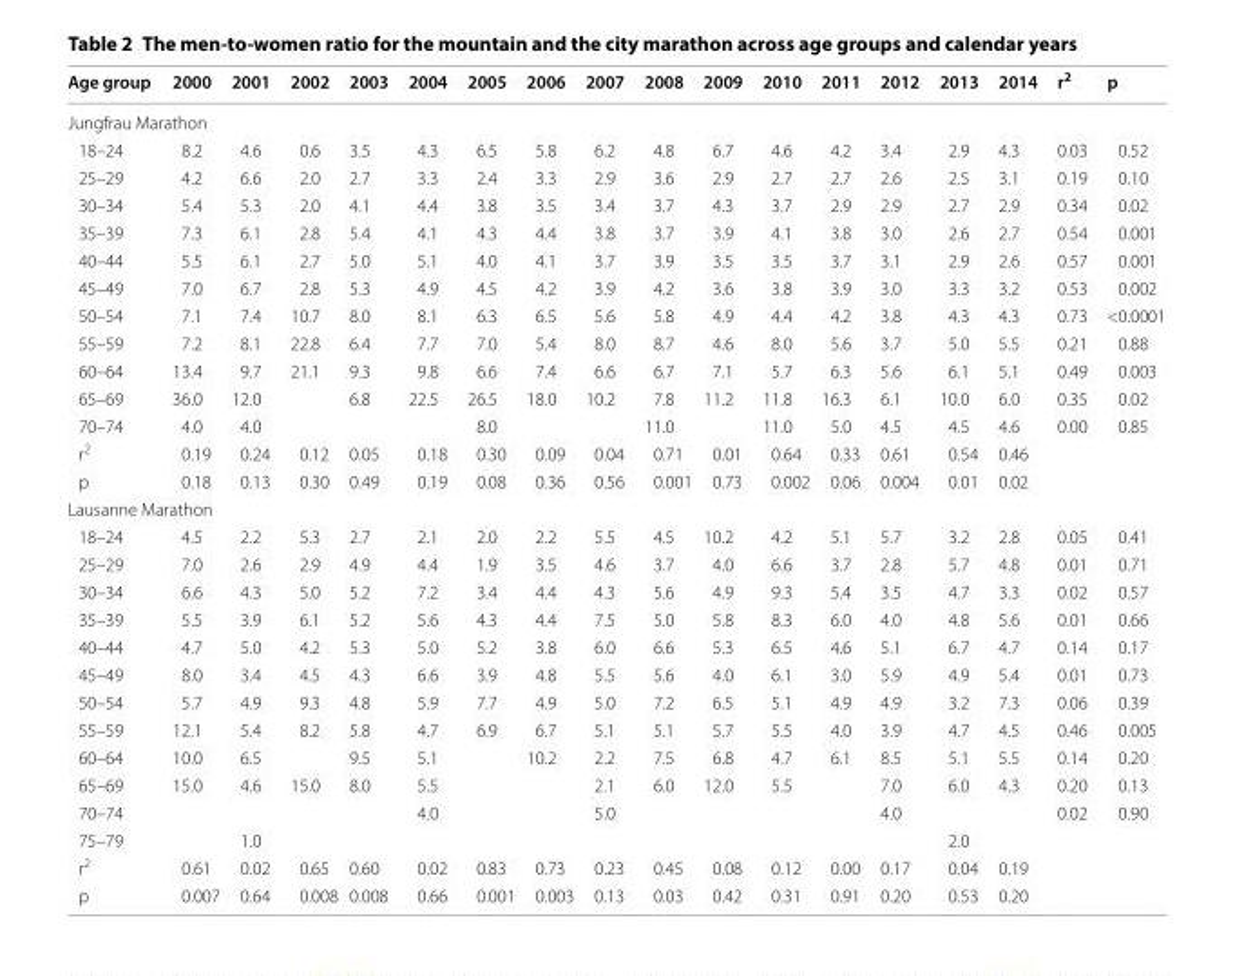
<table><thead><tr><td>Age group</td><td>2000</td><td>2001</td><td>2002</td><td>2003</td><td>2004</td><td>2005</td><td>2006</td><td>2007</td><td>2008</td><td>2009</td><td>2010</td><td>2011</td><td>2012</td><td>2013</td><td>2014</td><td>r<sup>2</sup></td><td>p</td></tr></thead><tbody><tr><td colspan="18">Jungfrau Marathon</td></tr><tr><td>18–24</td><td>8.2</td><td>4.6</td><td>0.6</td><td>3.5</td><td>4.3</td><td>6.5</td><td>5.8</td><td>6.2</td><td>4.8</td><td>6.7</td><td>4.6</td><td>4.2</td><td>3.4</td><td>2.9</td><td>4.3</td><td>0.03</td><td>0.52</td></tr><tr><td>25–29</td><td>4.2</td><td>6.6</td><td>2.0</td><td>2.7</td><td>3.3</td><td>2.4</td><td>3.3</td><td>2.9</td><td>3.6</td><td>2.9</td><td>2.7</td><td>2.7</td><td>2.6</td><td>2.5</td><td>3.1</td><td>0.19</td><td>0.10</td></tr><tr><td>30–34</td><td>5.4</td><td>5.3</td><td>2.0</td><td>4.1</td><td>4.4</td><td>3.8</td><td>3.5</td><td>3.4</td><td>3.7</td><td>4.3</td><td>3.7</td><td>2.9</td><td>2.9</td><td>2.7</td><td>2.9</td><td>0.34</td><td>0.02</td></tr><tr><td>35–39</td><td>7.3</td><td>6.1</td><td>2.8</td><td>5.4</td><td>4.1</td><td>4.3</td><td>4.4</td><td>3.8</td><td>3.7</td><td>3.9</td><td>4.1</td><td>3.8</td><td>3.0</td><td>2.6</td><td>2.7</td><td>0.54</td><td>0.001</td></tr><tr><td>40–44</td><td>5.5</td><td>6.1</td><td>2.7</td><td>5.0</td><td>5.1</td><td>4.0</td><td>4.1</td><td>3.7</td><td>3.9</td><td>3.5</td><td>3.5</td><td>3.7</td><td>3.1</td><td>2.9</td><td>2.6</td><td>0.57</td><td>0.001</td></tr><tr><td>45–49</td><td>7.0</td><td>6.7</td><td>2.8</td><td>5.3</td><td>4.9</td><td>4.5</td><td>4.2</td><td>3.9</td><td>4.2</td><td>3.6</td><td>3.8</td><td>3.9</td><td>3.0</td><td>3.3</td><td>3.2</td><td>0.53</td><td>0.002</td></tr><tr><td>50–54</td><td>7.1</td><td>7.4</td><td>10.7</td><td>8.0</td><td>8.1</td><td>6.3</td><td>6.5</td><td>5.6</td><td>5.8</td><td>4.9</td><td>4.4</td><td>4.2</td><td>3.8</td><td>4.3</td><td>4.3</td><td>0.73</td><td>&lt;0.0001</td></tr><tr><td>55–59</td><td>7.2</td><td>8.1</td><td>22.8</td><td>6.4</td><td>7.7</td><td>7.0</td><td>5.4</td><td>8.0</td><td>8.7</td><td>4.6</td><td>8.0</td><td>5.6</td><td>3.7</td><td>5.0</td><td>5.5</td><td>0.21</td><td>0.88</td></tr><tr><td>60–64</td><td>13.4</td><td>9.7</td><td>21.1</td><td>9.3</td><td>9.8</td><td>6.6</td><td>7.4</td><td>6.6</td><td>6.7</td><td>7.1</td><td>5.7</td><td>6.3</td><td>5.6</td><td>6.1</td><td>5.1</td><td>0.49</td><td>0.003</td></tr><tr><td>65–69</td><td>36.0</td><td>12.0</td><td></td><td>6.8</td><td>22.5</td><td>26.5</td><td>18.0</td><td>10.2</td><td>7.8</td><td>11.2</td><td>11.8</td><td>16.3</td><td>6.1</td><td>10.0</td><td>6.0</td><td>0.35</td><td>0.02</td></tr><tr><td>70–74</td><td>4.0</td><td>4.0</td><td></td><td></td><td></td><td>8.0</td><td></td><td></td><td>11.0</td><td></td><td>11.0</td><td>5.0</td><td>4.5</td><td>4.5</td><td>4.6</td><td>0.00</td><td>0.85</td></tr><tr><td>r<sup>2</sup></td><td>0.19</td><td>0.24</td><td>0.12</td><td>0.05</td><td>0.18</td><td>0.30</td><td>0.09</td><td>0.04</td><td>0.71</td><td>0.01</td><td>0.64</td><td>0.33</td><td>0.61</td><td>0.54</td><td>0.46</td><td></td><td></td></tr><tr><td>p</td><td>0.18</td><td>0.13</td><td>0.30</td><td>0.49</td><td>0.19</td><td>0.08</td><td>0.36</td><td>0.56</td><td>0.001</td><td>0.73</td><td>0.002</td><td>0.06</td><td>0.004</td><td>0.01</td><td>0.02</td><td></td><td></td></tr><tr><td colspan="18">Lausanne Marathon</td></tr><tr><td>18–24</td><td>4.5</td><td>2.2</td><td>5.3</td><td>2.7</td><td>2.1</td><td>2.0</td><td>2.2</td><td>5.5</td><td>4.5</td><td>10.2</td><td>4.2</td><td>5.1</td><td>5.7</td><td>3.2</td><td>2.8</td><td>0.05</td><td>0.41</td></tr><tr><td>25–29</td><td>7.0</td><td>2.6</td><td>2.9</td><td>4.9</td><td>4.4</td><td>1.9</td><td>3.5</td><td>4.6</td><td>3.7</td><td>4.0</td><td>6.6</td><td>3.7</td><td>2.8</td><td>5.7</td><td>4.8</td><td>0.01</td><td>0.71</td></tr><tr><td>30–34</td><td>6.6</td><td>4.3</td><td>5.0</td><td>5.2</td><td>7.2</td><td>3.4</td><td>4.4</td><td>4.3</td><td>5.6</td><td>4.9</td><td>9.3</td><td>5.4</td><td>3.5</td><td>4.7</td><td>3.3</td><td>0.02</td><td>0.57</td></tr><tr><td>35–39</td><td>5.5</td><td>3.9</td><td>6.1</td><td>5.2</td><td>5.6</td><td>4.3</td><td>4.4</td><td>7.5</td><td>5.0</td><td>5.8</td><td>8.3</td><td>6.0</td><td>4.0</td><td>4.8</td><td>5.6</td><td>0.01</td><td>0.66</td></tr><tr><td>40–44</td><td>4.7</td><td>5.0</td><td>4.2</td><td>5.3</td><td>5.0</td><td>5.2</td><td>3.8</td><td>6.0</td><td>6.6</td><td>5.3</td><td>6.5</td><td>4.6</td><td>5.1</td><td>6.7</td><td>4.7</td><td>0.14</td><td>0.17</td></tr><tr><td>45–49</td><td>8.0</td><td>3.4</td><td>4.5</td><td>4.3</td><td>6.6</td><td>3.9</td><td>4.8</td><td>5.5</td><td>5.6</td><td>4.0</td><td>6.1</td><td>3.0</td><td>5.9</td><td>4.9</td><td>5.4</td><td>0.01</td><td>0.73</td></tr><tr><td>50–54</td><td>5.7</td><td>4.9</td><td>9.3</td><td>4.8</td><td>5.9</td><td>7.7</td><td>4.9</td><td>5.0</td><td>7.2</td><td>6.5</td><td>5.1</td><td>4.9</td><td>4.9</td><td>3.2</td><td>7.3</td><td>0.06</td><td>0.39</td></tr><tr><td>55–59</td><td>12.1</td><td>5.4</td><td>8.2</td><td>5.8</td><td>4.7</td><td>6.9</td><td>6.7</td><td>5.1</td><td>5.1</td><td>5.7</td><td>5.5</td><td>4.0</td><td>3.9</td><td>4.7</td><td>4.5</td><td>0.46</td><td>0.005</td></tr><tr><td>60–64</td><td>10.0</td><td>6.5</td><td></td><td>9.5</td><td>5.1</td><td></td><td>10.2</td><td>2.2</td><td>7.5</td><td>6.8</td><td>4.7</td><td>6.1</td><td>8.5</td><td>5.1</td><td>5.5</td><td>0.14</td><td>0.20</td></tr><tr><td>65–69</td><td>15.0</td><td>4.6</td><td>15.0</td><td>8.0</td><td>5.5</td><td></td><td></td><td>2.1</td><td>6.0</td><td>12.0</td><td>5.5</td><td></td><td>7.0</td><td>6.0</td><td>4.3</td><td>0.20</td><td>0.13</td></tr><tr><td>70–74</td><td></td><td></td><td></td><td></td><td>4.0</td><td></td><td></td><td>5.0</td><td></td><td></td><td></td><td></td><td>4.0</td><td></td><td></td><td>0.02</td><td>0.90</td></tr><tr><td>75–79</td><td></td><td>1.0</td><td></td><td></td><td></td><td></td><td></td><td></td><td></td><td></td><td></td><td></td><td></td><td>2.0</td><td></td><td></td><td></td></tr><tr><td>r<sup>2</sup></td><td>0.61</td><td>0.02</td><td>0.65</td><td>0.60</td><td>0.02</td><td>0.83</td><td>0.73</td><td>0.23</td><td>0.45</td><td>0.08</td><td>0.12</td><td>0.00</td><td>0.17</td><td>0.04</td><td>0.19</td><td></td><td></td></tr><tr><td>p</td><td>0.007</td><td>0.64</td><td>0.008</td><td>0.008</td><td>0.66</td><td>0.001</td><td>0.003</td><td>0.13</td><td>0.03</td><td>0.42</td><td>0.31</td><td>0.91</td><td>0.20</td><td>0.53</td><td>0.20</td><td></td><td></td></tr></tbody></table>